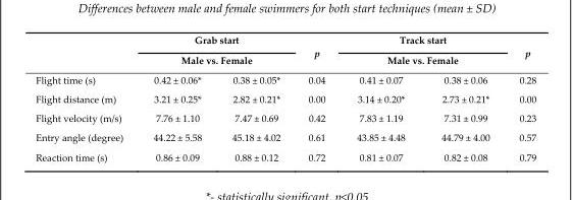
<table><thead><tr><td rowspan="3">Flight time (s)</td><td rowspan="2" colspan="2">Grab start Male vs. Female</td><td rowspan="3">p 0.04</td><td rowspan="2" colspan="2">Track start Male vs. Female</td><td rowspan="3">p 0.28</td></tr><tr></tr><tr><td>0.42 ± 0.06*</td><td>0.38 ± 0.05*</td><td>0.41 ± 0.07</td><td>0.38 ± 0.06</td></tr></thead><tbody><tr><td>Flight distance (m)</td><td>3.21 ± 0.25*</td><td>2.82 ± 0.21*</td><td>0.00</td><td>3.14 ± 0.20*</td><td>2.73 ± 0.21*</td><td>0.00</td></tr><tr><td>Flight velocity (m/s)</td><td>7.76 ± 1.10</td><td>7.47 ± 0.69</td><td>0.42</td><td>7.83 ± 1.19</td><td>7.31 ± 0.99</td><td>0.23</td></tr><tr><td>Entry angle (degree)</td><td>44.22 ± 5.58</td><td>45.18 ± 4.02</td><td>0.61</td><td>43.85 ± 4.48</td><td>44.79 ± 4.00</td><td>0.57</td></tr><tr><td>Reaction time (s)</td><td>0.86 ± 0.09</td><td>0.88 ± 0.12</td><td>0.72</td><td>0.81 ± 0.07</td><td>0.82 ± 0.08</td><td>0.79</td></tr></tbody></table>